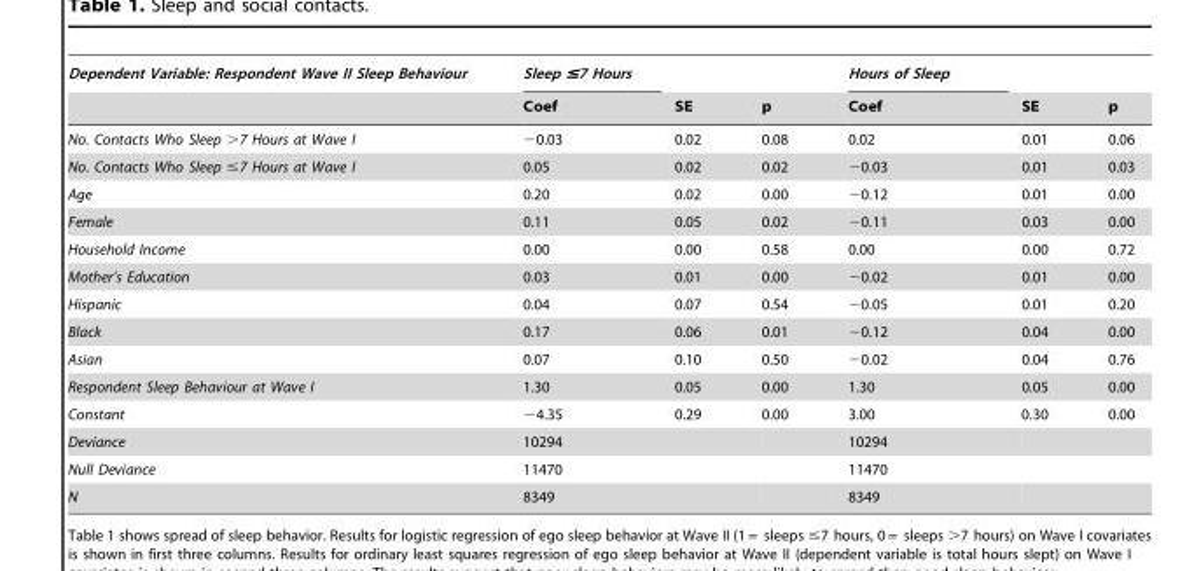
<table><thead><tr><td rowspan="2">Dependent Variable: Respondent Wave II Sleep Behaviour</td><td rowspan="2">Sleep ≤7 Hours Coef</td><td rowspan="2">SE</td><td rowspan="2">p</td><td rowspan="2">Hours of Sleep Coef</td><td rowspan="2">SE</td><td rowspan="2">p</td></tr><tr></tr></thead><tbody><tr><td>No. Contacts Who Sleep &gt;7 Hours at Wave I</td><td>−0.03</td><td>0.02</td><td>0.08</td><td>0.02</td><td>0.01</td><td>0.06</td></tr><tr><td>No. Contacts Who Sleep ≤7 Hours at Wave I</td><td>0.05</td><td>0.02</td><td>0.02</td><td>−0.03</td><td>0.01</td><td>0.03</td></tr><tr><td>Age</td><td>0.20</td><td>0.02</td><td>0.00</td><td>−0.12</td><td>0.01</td><td>0.00</td></tr><tr><td>Female</td><td>0.11</td><td>0.05</td><td>0.02</td><td>−0.11</td><td>0.03</td><td>0.00</td></tr><tr><td>Household Income</td><td>0.00</td><td>0.00</td><td>0.58</td><td>0.00</td><td>0.00</td><td>0.72</td></tr><tr><td>Mother’s Education</td><td>0.03</td><td>0.01</td><td>0.00</td><td>−0.02</td><td>0.01</td><td>0.00</td></tr><tr><td>Hispanic</td><td>0.04</td><td>0.07</td><td>0.54</td><td>−0.05</td><td>0.01</td><td>0.20</td></tr><tr><td>Black</td><td>0.17</td><td>0.06</td><td>0.01</td><td>−0.12</td><td>0.04</td><td>0.00</td></tr><tr><td>Asian</td><td>0.07</td><td>0.10</td><td>0.50</td><td>−0.02</td><td>0.04</td><td>0.76</td></tr><tr><td>Respondent Sleep Behaviour at Wave I</td><td>1.30</td><td>0.05</td><td>0.00</td><td>1.30</td><td>0.05</td><td>0.00</td></tr><tr><td>Constant</td><td>−4.35</td><td>0.29</td><td>0.00</td><td>3.00</td><td>0.30</td><td>0.00</td></tr><tr><td>Deviance</td><td>10294</td><td></td><td></td><td>10294</td><td></td><td></td></tr><tr><td>Null Deviance</td><td>11470</td><td></td><td></td><td>11470</td><td></td><td></td></tr><tr><td>N</td><td>8349</td><td></td><td></td><td>8349</td><td></td><td></td></tr></tbody></table>